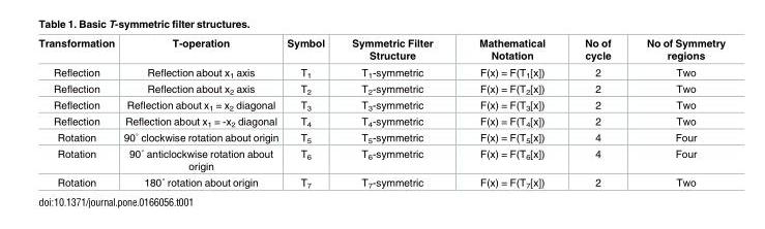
<table><thead><tr><td>Transformation</td><td>T-operation</td><td>Symbol</td><td>Symmetric Filter Structure</td><td>Mathematical Notation</td><td>No of cycle</td><td>No of Symmetry regions</td></tr></thead><tbody><tr><td>Reflection</td><td>Reflection about x<sub>1</sub> axis</td><td>T<sub>1</sub></td><td>T<sub>1</sub>-symmetric</td><td>F(x) = F(T<sub>1</sub>[x])</td><td>2</td><td>Two</td></tr><tr><td>Reflection</td><td>Reflection about x<sub>2</sub> axis</td><td>T<sub>2</sub></td><td>T<sub>2</sub>-symmetric</td><td>F(x) = F(T<sub>2</sub>[x])</td><td>2</td><td>Two</td></tr><tr><td>Reflection</td><td>Reflection about x<sub>1</sub> = x<sub>2</sub> diagonal</td><td>T<sub>3</sub></td><td>T<sub>3</sub>-symmetric</td><td>F(x) = F(T<sub>3</sub>[x])</td><td>2</td><td>Two</td></tr><tr><td>Reflection</td><td>Reflection about x<sub>1</sub> = -x<sub>2</sub> diagonal</td><td>T<sub>4</sub></td><td>T<sub>4</sub>-symmetric</td><td>F(x) = F(T<sub>4</sub>[x])</td><td>2</td><td>Two</td></tr><tr><td>Rotation</td><td>90˚ clockwise rotation about origin</td><td>T<sub>5</sub></td><td>T<sub>5</sub>-symmetric</td><td>F(x) = F(T<sub>5</sub>[x])</td><td>4</td><td>Four</td></tr><tr><td>Rotation</td><td>90˚ anticlockwise rotation about origin</td><td>T<sub>6</sub></td><td>T<sub>6</sub>-symmetric</td><td>F(x) = F(T<sub>6</sub>[x])</td><td>4</td><td>Four</td></tr><tr><td>Rotation</td><td>180˚ rotation about origin</td><td>T<sub>7</sub></td><td>T<sub>7</sub>-symmetric</td><td>F(x) = F(T<sub>7</sub>[x])</td><td>2</td><td>Two</td></tr></tbody></table>